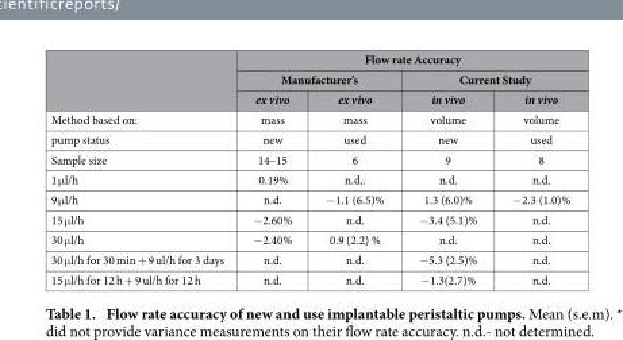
<table><thead><tr><td rowspan="3"></td><td colspan="4">Flow rate Accuracy</td></tr><tr><td colspan="2">Manufacturer’s</td><td colspan="2">Current Study</td></tr><tr><td>ex vivo</td><td>ex vivo</td><td>in vivo</td><td>in vivo</td></tr></thead><tbody><tr><td>Method based on:</td><td>mass</td><td>mass</td><td>volume</td><td>volume</td></tr><tr><td>pump status</td><td>new</td><td>used</td><td>new</td><td>used</td></tr><tr><td>Sample size</td><td>14–15</td><td>6</td><td>9</td><td>8</td></tr><tr><td>1 μ l/h</td><td>0.19%</td><td>n.d,.</td><td>n.d.</td><td>n.d.</td></tr><tr><td>9 μ l/h</td><td>n.d.</td><td>− 1.1 (6.5)%</td><td>1.3 (6.0)%</td><td>− 2.3 (1.0)%</td></tr><tr><td>15 μ l/h</td><td>− 2.60%</td><td>n.d.</td><td>− 3.4 (5.1)%</td><td>n.d.</td></tr><tr><td>30 μ l/h</td><td>− 2.40%</td><td>0.9 (2.2) %</td><td>n.d.</td><td>n.d.</td></tr><tr><td>30 μ l/h for 30 min + 9 ul/h for 3 days</td><td>n.d.</td><td>n.d.</td><td>− 5.3 (2.5)%</td><td>n.d.</td></tr><tr><td>15 μ l/h for 12 h + 9 ul/h for 12 h</td><td>n.d.</td><td>n.d.</td><td>− 1.3(2.7)%</td><td>n.d.</td></tr></tbody></table>